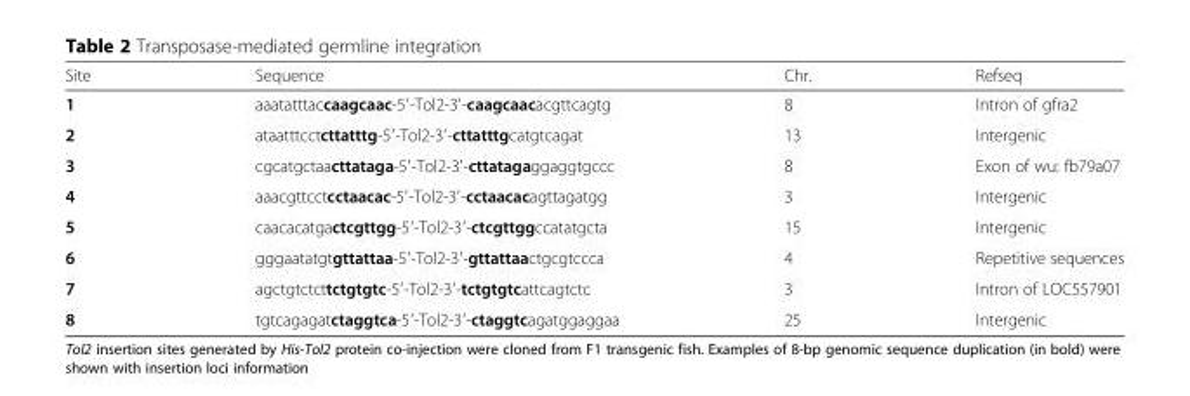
<table><thead><tr><td>Site</td><td>Sequence</td><td>Chr.</td><td>Refseq</td></tr></thead><tbody><tr><td>1</td><td>aaatatttaccaagcaac-5′-Tol2-3′-caagcaacacgttcagtg</td><td>8</td><td>Intron of gfra2</td></tr><tr><td>2</td><td>ataatttcctcttatttg-5′-Tol2-3′-cttatttgcatgtcagat</td><td>13</td><td>Intergenic</td></tr><tr><td>3</td><td>cgcatgctaacttataga-5′-Tol2-3′-cttatagaggaggtgccc</td><td>8</td><td>Exon of wu: fb79a07</td></tr><tr><td>4</td><td>aaacgttcctcctaacac-5′-Tol2-3′-cctaacacagttagatgg</td><td>3</td><td>Intergenic</td></tr><tr><td>5</td><td>caacacatgactcgttgg-5′-Tol2-3′-ctcgttggccatatgcta</td><td>15</td><td>Intergenic</td></tr><tr><td>6</td><td>gggaatatgtgttattaa-5′-Tol2-3′-gttattaactgcgtccca</td><td>4</td><td>Repetitive sequences</td></tr><tr><td>7</td><td>agctgtctcttctgtgtc-5′-Tol2-3′-tctgtgtcattcagtctc</td><td>3</td><td>Intron of LOC557901</td></tr><tr><td>8</td><td>tgtcagagatctaggtca-5′-Tol2-3′-ctaggtcagatggaggaa</td><td>25</td><td>Intergenic</td></tr></tbody></table>